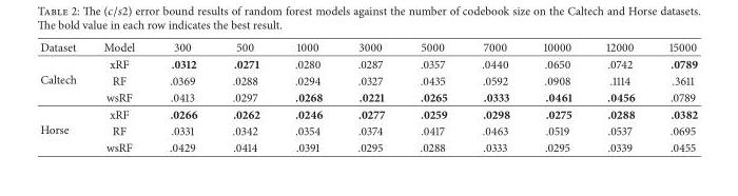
<table><thead><tr><td>Dataset</td><td>Model</td><td>300</td><td>500</td><td>1000</td><td>3000</td><td>5000</td><td>7000</td><td>10000</td><td>12000</td><td>15000</td></tr></thead><tbody><tr><td rowspan="3">Caltech</td><td>xRF</td><td>.0312</td><td>.0271</td><td>.0280</td><td>.0287</td><td>.0357</td><td>.0440</td><td>.0650</td><td>.0742</td><td>.0789</td></tr><tr><td>RF</td><td>.0369</td><td>.0288</td><td>.0294</td><td>.0327</td><td>.0435</td><td>.0592</td><td>.0908</td><td>.1114</td><td>.3611</td></tr><tr><td>wsRF</td><td>.0413</td><td>.0297</td><td>.0268</td><td>.0221</td><td>.0265</td><td>.0333</td><td>.0461</td><td>.0456</td><td>.0789</td></tr><tr><td rowspan="3">Horse</td><td>xRF</td><td>.0266</td><td>.0262</td><td>.0246</td><td>.0277</td><td>.0259</td><td>.0298</td><td>.0275</td><td>.0288</td><td>.0382</td></tr><tr><td>RF</td><td>.0331</td><td>.0342</td><td>.0354</td><td>.0374</td><td>.0417</td><td>.0463</td><td>.0519</td><td>.0537</td><td>.0695</td></tr><tr><td>wsRF</td><td>.0429</td><td>.0414</td><td>.0391</td><td>.0295</td><td>.0288</td><td>.0333</td><td>.0295</td><td>.0339</td><td>.0455</td></tr></tbody></table>